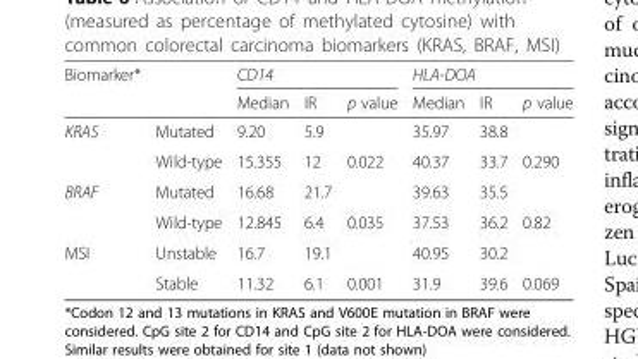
<table><thead><tr><td rowspan="2">Biomarker*</td><td rowspan="2"></td><td colspan="3">CD14</td><td colspan="3">HLA-DOA</td></tr><tr><td>Median</td><td>IR</td><td>p value</td><td>Median</td><td>IR</td><td>p value</td></tr></thead><tbody><tr><td rowspan="2">KRAS</td><td>Mutated</td><td>9.20</td><td>5.9</td><td></td><td>35.97</td><td>38.8</td><td></td></tr><tr><td>Wild-type</td><td>15.355</td><td>12</td><td>0.022</td><td>40.37</td><td>33.7</td><td>0.290</td></tr><tr><td rowspan="2">BRAF</td><td>Mutated</td><td>16.68</td><td>21.7</td><td></td><td>39.63</td><td>35.5</td><td></td></tr><tr><td>Wild-type</td><td>12.845</td><td>6.4</td><td>0.035</td><td>37.53</td><td>36.2</td><td>0.82</td></tr><tr><td rowspan="2">MSI</td><td>Unstable</td><td>16.7</td><td>19.1</td><td></td><td>40.95</td><td>30.2</td><td></td></tr><tr><td>Stable</td><td>11.32</td><td>6.1</td><td>0.001</td><td>31.9</td><td>39.6</td><td>0.069</td></tr></tbody></table>